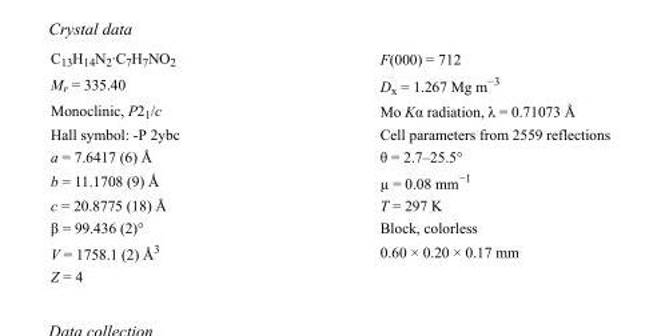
<table><tbody><tr><td>C<sub>13</sub>H<sub>14</sub>N<sub>2</sub>·C<sub>7</sub>H<sub>7</sub>NO<sub>2</sub></td><td>F(000) = 712</td></tr><tr><td>M<sub>r</sub> = 335.40</td><td>D<sub>x</sub> = 1.267 Mg m<sup>−3</sup></td></tr><tr><td>Monoclinic, P2<sub>1</sub>/c</td><td>Mo Kα radiation, λ = 0.71073 Å</td></tr><tr><td>Hall symbol: -P 2ybc</td><td>Cell parameters from 2559 reflections</td></tr><tr><td>a = 7.6417 (6) Å</td><td>θ = 2.7–25.5°</td></tr><tr><td>b = 11.1708 (9) Å</td><td>µ = 0.08 mm<sup>−1</sup></td></tr><tr><td>c = 20.8775 (18) Å</td><td>T = 297 K</td></tr><tr><td>β = 99.436 (2)°</td><td>Block, colorless</td></tr><tr><td>V = 1758.1 (2) Å<sup>3</sup></td><td>0.60 × 0.20 × 0.17 mm</td></tr><tr><td>Z = 4</td><td></td></tr></tbody></table>